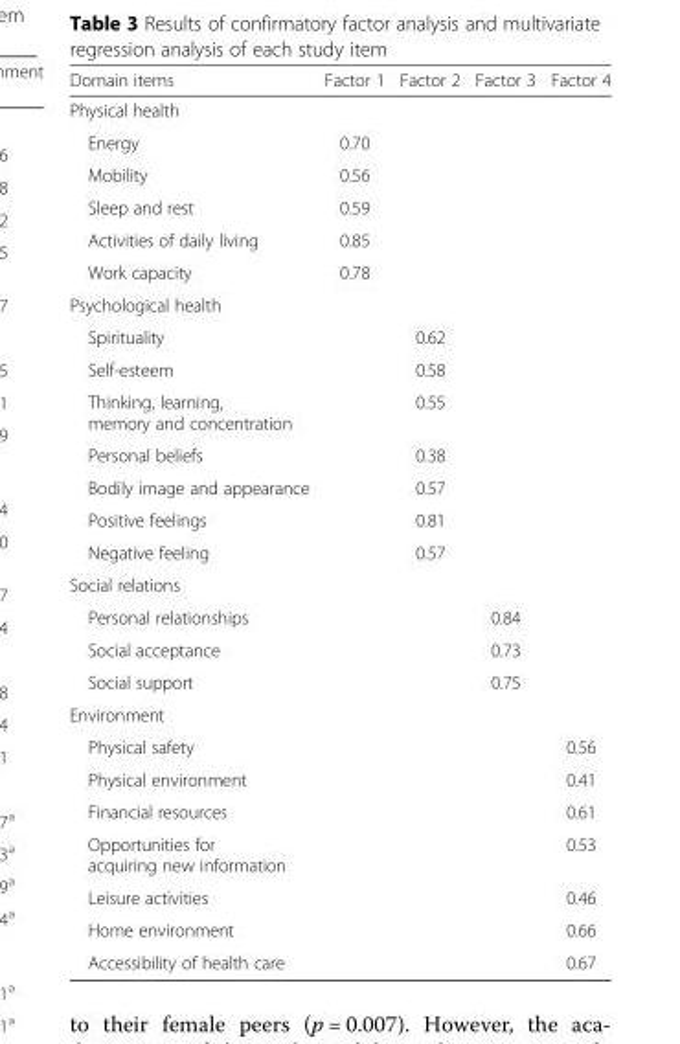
<table><thead><tr><td>Domain items</td><td>Factor 1</td><td>Factor 2</td><td>Factor 3</td><td>Factor 4</td></tr></thead><tbody><tr><td colspan="5">Physical health</td></tr><tr><td>Energy</td><td>0.70</td><td></td><td></td><td></td></tr><tr><td>Mobility</td><td>0.56</td><td></td><td></td><td></td></tr><tr><td>Sleep and rest</td><td>0.59</td><td></td><td></td><td></td></tr><tr><td>Activities of daily living</td><td>0.85</td><td></td><td></td><td></td></tr><tr><td>Work capacity</td><td>0.78</td><td></td><td></td><td></td></tr><tr><td colspan="5">Psychological health</td></tr><tr><td>Spirituality</td><td></td><td>0.62</td><td></td><td></td></tr><tr><td>Self-esteem</td><td></td><td>0.58</td><td></td><td></td></tr><tr><td>Thinking, learning, memory and concentration</td><td></td><td>0.55</td><td></td><td></td></tr><tr><td>Personal beliefs</td><td></td><td>0.38</td><td></td><td></td></tr><tr><td>Bodily image and appearance</td><td></td><td>0.57</td><td></td><td></td></tr><tr><td>Positive feelings</td><td></td><td>0.81</td><td></td><td></td></tr><tr><td>Negative feeling</td><td></td><td>0.57</td><td></td><td></td></tr><tr><td colspan="5">Social relations</td></tr><tr><td>Personal relationships</td><td></td><td></td><td>0.84</td><td></td></tr><tr><td>Social acceptance</td><td></td><td></td><td>0.73</td><td></td></tr><tr><td>Social support</td><td></td><td></td><td>0.75</td><td></td></tr><tr><td colspan="5">Environment</td></tr><tr><td>Physical safety</td><td></td><td></td><td></td><td>0.56</td></tr><tr><td>Physical environment</td><td></td><td></td><td></td><td>0.41</td></tr><tr><td>Financial resources</td><td></td><td></td><td></td><td>0.61</td></tr><tr><td>Opportunities for acquiring new information</td><td></td><td></td><td></td><td>0.53</td></tr><tr><td>Leisure activities</td><td></td><td></td><td></td><td>0.46</td></tr><tr><td>Home environment</td><td></td><td></td><td></td><td>0.66</td></tr><tr><td>Accessibility of health care</td><td></td><td></td><td></td><td>0.67</td></tr></tbody></table>